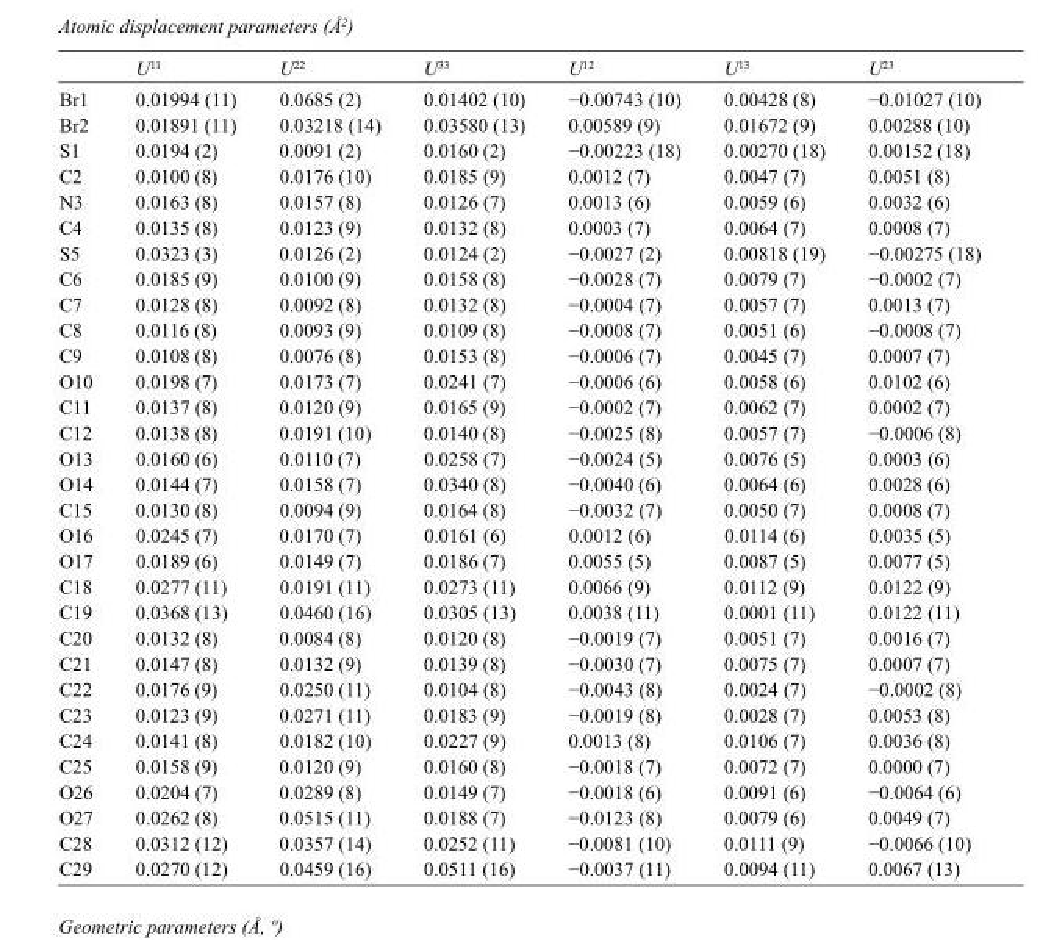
<table><thead><tr><td></td><td>U<sup>11</sup></td><td>U<sup>22</sup></td><td>U<sup>33</sup></td><td>U<sup>12</sup></td><td>U<sup>13</sup></td><td>U<sup>23</sup></td></tr></thead><tbody><tr><td>Br1</td><td>0.01994 (11)</td><td>0.0685 (2)</td><td>0.01402 (10)</td><td>−0.00743 (10)</td><td>0.00428 (8)</td><td>−0.01027 (10)</td></tr><tr><td>Br2</td><td>0.01891 (11)</td><td>0.03218 (14)</td><td>0.03580 (13)</td><td>0.00589 (9)</td><td>0.01672 (9)</td><td>0.00288 (10)</td></tr><tr><td>S1</td><td>0.0194 (2)</td><td>0.0091 (2)</td><td>0.0160 (2)</td><td>−0.00223 (18)</td><td>0.00270 (18)</td><td>0.00152 (18)</td></tr><tr><td>C2</td><td>0.0100 (8)</td><td>0.0176 (10)</td><td>0.0185 (9)</td><td>0.0012 (7)</td><td>0.0047 (7)</td><td>0.0051 (8)</td></tr><tr><td>N3</td><td>0.0163 (8)</td><td>0.0157 (8)</td><td>0.0126 (7)</td><td>0.0013 (6)</td><td>0.0059 (6)</td><td>0.0032 (6)</td></tr><tr><td>C4</td><td>0.0135 (8)</td><td>0.0123 (9)</td><td>0.0132 (8)</td><td>0.0003 (7)</td><td>0.0064 (7)</td><td>0.0008 (7)</td></tr><tr><td>S5</td><td>0.0323 (3)</td><td>0.0126 (2)</td><td>0.0124 (2)</td><td>−0.0027 (2)</td><td>0.00818 (19)</td><td>−0.00275 (18)</td></tr><tr><td>C6</td><td>0.0185 (9)</td><td>0.0100 (9)</td><td>0.0158 (8)</td><td>−0.0028 (7)</td><td>0.0079 (7)</td><td>−0.0002 (7)</td></tr><tr><td>C7</td><td>0.0128 (8)</td><td>0.0092 (8)</td><td>0.0132 (8)</td><td>−0.0004 (7)</td><td>0.0057 (7)</td><td>0.0013 (7)</td></tr><tr><td>C8</td><td>0.0116 (8)</td><td>0.0093 (9)</td><td>0.0109 (8)</td><td>−0.0008 (7)</td><td>0.0051 (6)</td><td>−0.0008 (7)</td></tr><tr><td>C9</td><td>0.0108 (8)</td><td>0.0076 (8)</td><td>0.0153 (8)</td><td>−0.0006 (7)</td><td>0.0045 (7)</td><td>0.0007 (7)</td></tr><tr><td>O10</td><td>0.0198 (7)</td><td>0.0173 (7)</td><td>0.0241 (7)</td><td>−0.0006 (6)</td><td>0.0058 (6)</td><td>0.0102 (6)</td></tr><tr><td>C11</td><td>0.0137 (8)</td><td>0.0120 (9)</td><td>0.0165 (9)</td><td>−0.0002 (7)</td><td>0.0062 (7)</td><td>0.0002 (7)</td></tr><tr><td>C12</td><td>0.0138 (8)</td><td>0.0191 (10)</td><td>0.0140 (8)</td><td>−0.0025 (8)</td><td>0.0057 (7)</td><td>−0.0006 (8)</td></tr><tr><td>O13</td><td>0.0160 (6)</td><td>0.0110 (7)</td><td>0.0258 (7)</td><td>−0.0024 (5)</td><td>0.0076 (5)</td><td>0.0003 (6)</td></tr><tr><td>O14</td><td>0.0144 (7)</td><td>0.0158 (7)</td><td>0.0340 (8)</td><td>−0.0040 (6)</td><td>0.0064 (6)</td><td>0.0028 (6)</td></tr><tr><td>C15</td><td>0.0130 (8)</td><td>0.0094 (9)</td><td>0.0164 (8)</td><td>−0.0032 (7)</td><td>0.0050 (7)</td><td>0.0008 (7)</td></tr><tr><td>O16</td><td>0.0245 (7)</td><td>0.0170 (7)</td><td>0.0161 (6)</td><td>0.0012 (6)</td><td>0.0114 (6)</td><td>0.0035 (5)</td></tr><tr><td>O17</td><td>0.0189 (6)</td><td>0.0149 (7)</td><td>0.0186 (7)</td><td>0.0055 (5)</td><td>0.0087 (5)</td><td>0.0077 (5)</td></tr><tr><td>C18</td><td>0.0277 (11)</td><td>0.0191 (11)</td><td>0.0273 (11)</td><td>0.0066 (9)</td><td>0.0112 (9)</td><td>0.0122 (9)</td></tr><tr><td>C19</td><td>0.0368 (13)</td><td>0.0460 (16)</td><td>0.0305 (13)</td><td>0.0038 (11)</td><td>0.0001 (11)</td><td>0.0122 (11)</td></tr><tr><td>C20</td><td>0.0132 (8)</td><td>0.0084 (8)</td><td>0.0120 (8)</td><td>−0.0019 (7)</td><td>0.0051 (7)</td><td>0.0016 (7)</td></tr><tr><td>C21</td><td>0.0147 (8)</td><td>0.0132 (9)</td><td>0.0139 (8)</td><td>−0.0030 (7)</td><td>0.0075 (7)</td><td>0.0007 (7)</td></tr><tr><td>C22</td><td>0.0176 (9)</td><td>0.0250 (11)</td><td>0.0104 (8)</td><td>−0.0043 (8)</td><td>0.0024 (7)</td><td>−0.0002 (8)</td></tr><tr><td>C23</td><td>0.0123 (9)</td><td>0.0271 (11)</td><td>0.0183 (9)</td><td>−0.0019 (8)</td><td>0.0028 (7)</td><td>0.0053 (8)</td></tr><tr><td>C24</td><td>0.0141 (8)</td><td>0.0182 (10)</td><td>0.0227 (9)</td><td>0.0013 (8)</td><td>0.0106 (7)</td><td>0.0036 (8)</td></tr><tr><td>C25</td><td>0.0158 (9)</td><td>0.0120 (9)</td><td>0.0160 (8)</td><td>−0.0018 (7)</td><td>0.0072 (7)</td><td>0.0000 (7)</td></tr><tr><td>O26</td><td>0.0204 (7)</td><td>0.0289 (8)</td><td>0.0149 (7)</td><td>−0.0018 (6)</td><td>0.0091 (6)</td><td>−0.0064 (6)</td></tr><tr><td>O27</td><td>0.0262 (8)</td><td>0.0515 (11)</td><td>0.0188 (7)</td><td>−0.0123 (8)</td><td>0.0079 (6)</td><td>0.0049 (7)</td></tr><tr><td>C28</td><td>0.0312 (12)</td><td>0.0357 (14)</td><td>0.0252 (11)</td><td>−0.0081 (10)</td><td>0.0111 (9)</td><td>−0.0066 (10)</td></tr><tr><td>C29</td><td>0.0270 (12)</td><td>0.0459 (16)</td><td>0.0511 (16)</td><td>−0.0037 (11)</td><td>0.0094 (11)</td><td>0.0067 (13)</td></tr></tbody></table>